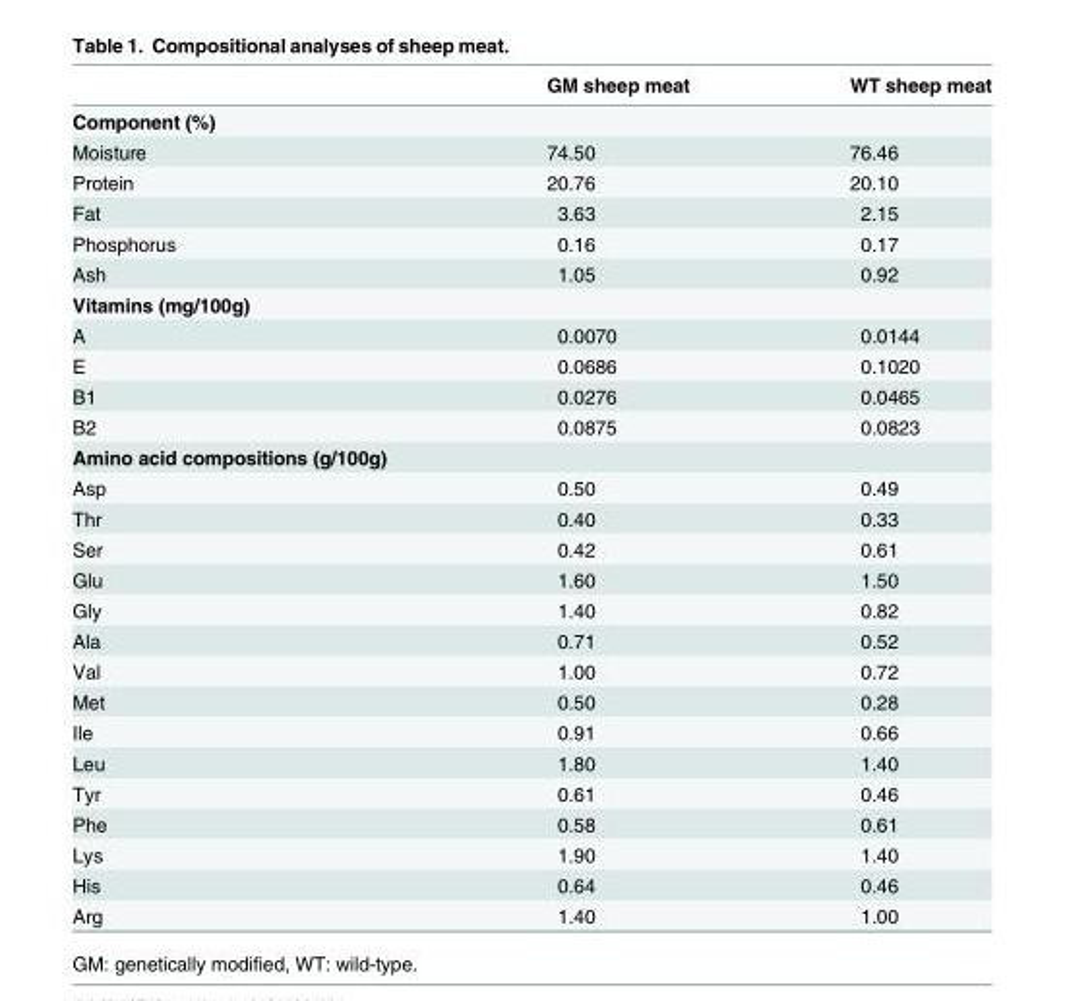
<table><thead><tr><td></td><td>GM sheep meat</td><td>WT sheep meat</td></tr></thead><tbody><tr><td colspan="3">Component (%)</td></tr><tr><td>Moisture</td><td>74.50</td><td>76.46</td></tr><tr><td>Protein</td><td>20.76</td><td>20.10</td></tr><tr><td>Fat</td><td>3.63</td><td>2.15</td></tr><tr><td>Phosphorus</td><td>0.16</td><td>0.17</td></tr><tr><td>Ash</td><td>1.05</td><td>0.92</td></tr><tr><td colspan="3">Vitamins (mg/100g)</td></tr><tr><td>A</td><td>0.0070</td><td>0.0144</td></tr><tr><td>E</td><td>0.0686</td><td>0.1020</td></tr><tr><td>B1</td><td>0.0276</td><td>0.0465</td></tr><tr><td>B2</td><td>0.0875</td><td>0.0823</td></tr><tr><td colspan="3">Amino acid compositions (g/100g)</td></tr><tr><td>Asp</td><td>0.50</td><td>0.49</td></tr><tr><td>Thr</td><td>0.40</td><td>0.33</td></tr><tr><td>Ser</td><td>0.42</td><td>0.61</td></tr><tr><td>Glu</td><td>1.60</td><td>1.50</td></tr><tr><td>Gly</td><td>1.40</td><td>0.82</td></tr><tr><td>Ala</td><td>0.71</td><td>0.52</td></tr><tr><td>Val</td><td>1.00</td><td>0.72</td></tr><tr><td>Met</td><td>0.50</td><td>0.28</td></tr><tr><td>Ile</td><td>0.91</td><td>0.66</td></tr><tr><td>Leu</td><td>1.80</td><td>1.40</td></tr><tr><td>Tyr</td><td>0.61</td><td>0.46</td></tr><tr><td>Phe</td><td>0.58</td><td>0.61</td></tr><tr><td>Lys</td><td>1.90</td><td>1.40</td></tr><tr><td>His</td><td>0.64</td><td>0.46</td></tr><tr><td>Arg</td><td>1.40</td><td>1.00</td></tr></tbody></table>